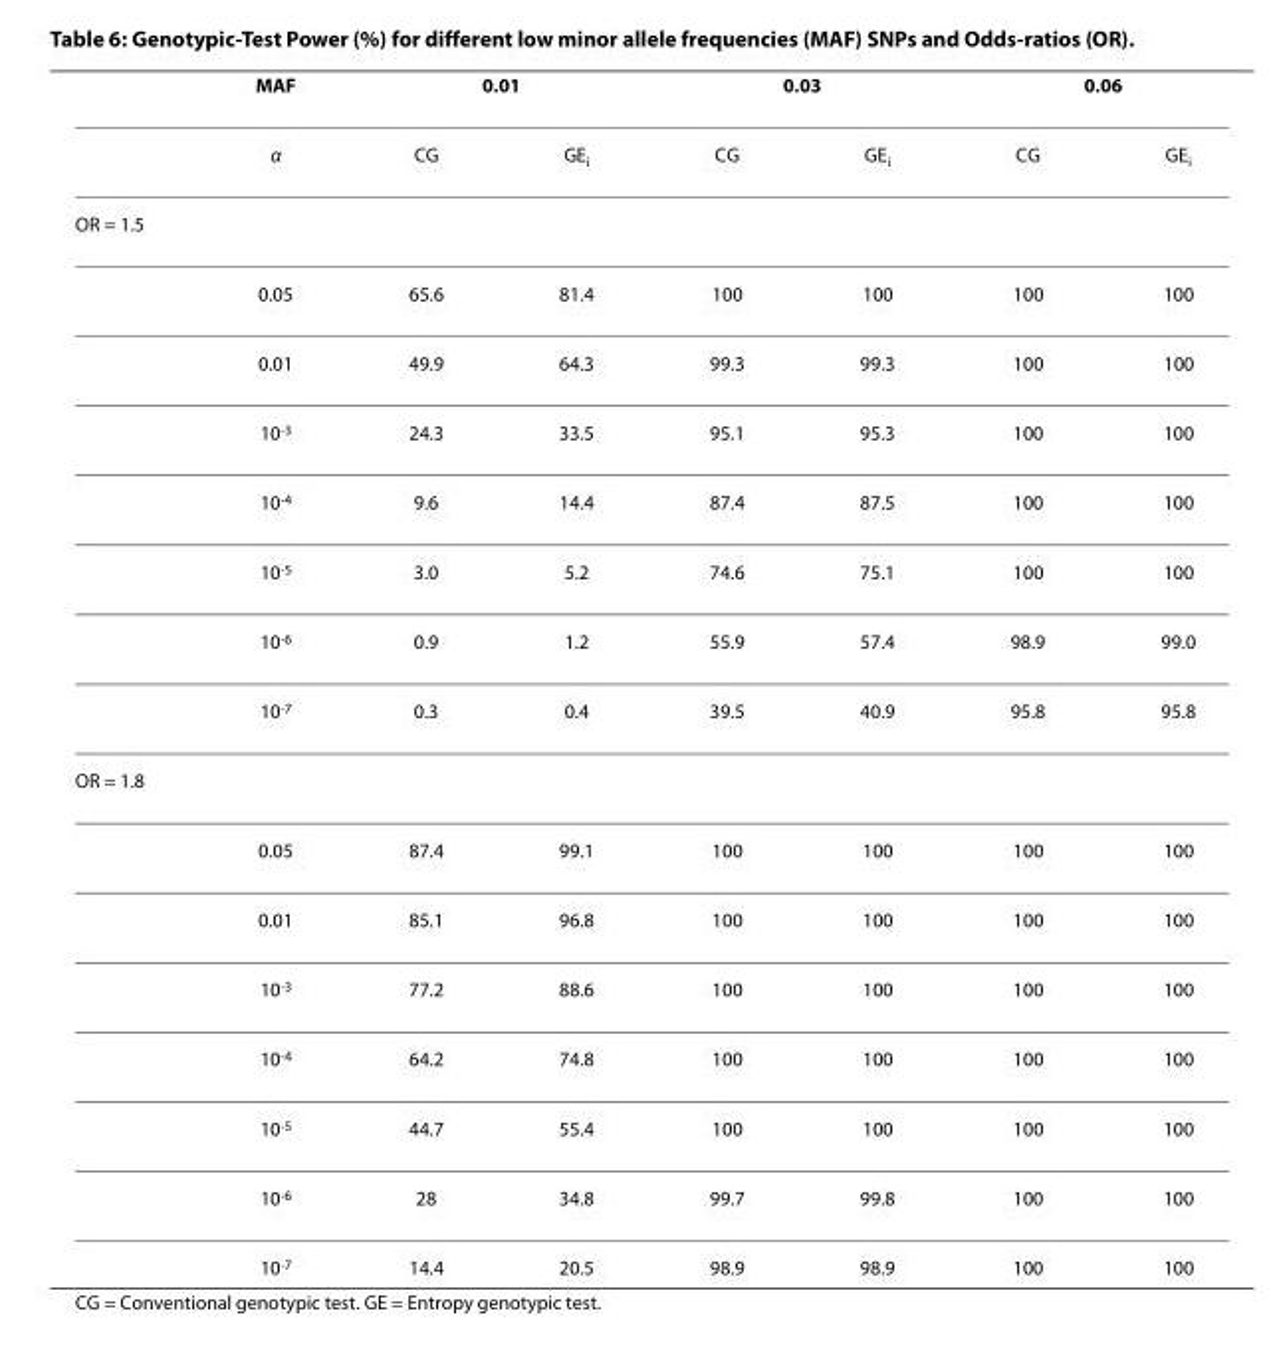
<table><thead><tr><td rowspan="2"></td><td rowspan="2">MAF α</td><td colspan="2">0.01</td><td colspan="2">0.03</td><td colspan="2">0.06</td></tr><tr><td>CG</td><td>GE<sub>i</sub></td><td>CG</td><td>GE<sub>i</sub></td><td>CG</td><td>GE<sub>i</sub></td></tr></thead><tbody><tr><td colspan="8">OR = 1.5</td></tr><tr><td></td><td>0.05</td><td>65.6</td><td>81.4</td><td>100</td><td>100</td><td>100</td><td>100</td></tr><tr><td></td><td>0.01</td><td>49.9</td><td>64.3</td><td>99.3</td><td>99.3</td><td>100</td><td>100</td></tr><tr><td></td><td>10<sup>-3</sup></td><td>24.3</td><td>33.5</td><td>95.1</td><td>95.3</td><td>100</td><td>100</td></tr><tr><td></td><td>10<sup>-4</sup></td><td>9.6</td><td>14.4</td><td>87.4</td><td>87.5</td><td>100</td><td>100</td></tr><tr><td></td><td>10<sup>-5</sup></td><td>3.0</td><td>5.2</td><td>74.6</td><td>75.1</td><td>100</td><td>100</td></tr><tr><td></td><td>10<sup>-6</sup></td><td>0.9</td><td>1.2</td><td>55.9</td><td>57.4</td><td>98.9</td><td>99.0</td></tr><tr><td></td><td>10<sup>-7</sup></td><td>0.3</td><td>0.4</td><td>39.5</td><td>40.9</td><td>95.8</td><td>95.8</td></tr><tr><td colspan="8">OR = 1.8</td></tr><tr><td></td><td>0.05</td><td>87.4</td><td>99.1</td><td>100</td><td>100</td><td>100</td><td>100</td></tr><tr><td></td><td>0.01</td><td>85.1</td><td>96.8</td><td>100</td><td>100</td><td>100</td><td>100</td></tr><tr><td></td><td>10<sup>-3</sup></td><td>77.2</td><td>88.6</td><td>100</td><td>100</td><td>100</td><td>100</td></tr><tr><td></td><td>10<sup>-4</sup></td><td>64.2</td><td>74.8</td><td>100</td><td>100</td><td>100</td><td>100</td></tr><tr><td></td><td>10<sup>-5</sup></td><td>44.7</td><td>55.4</td><td>100</td><td>100</td><td>100</td><td>100</td></tr><tr><td></td><td>10<sup>-6</sup></td><td>28</td><td>34.8</td><td>99.7</td><td>99.8</td><td>100</td><td>100</td></tr><tr><td></td><td>10<sup>-7</sup></td><td>14.4</td><td>20.5</td><td>98.9</td><td>98.9</td><td>100</td><td>100</td></tr></tbody></table>